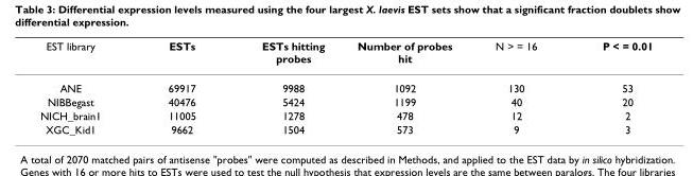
<table><thead><tr><td>EST library</td><td>ESTs</td><td>ESTs hitting probes</td><td>Number of probes hit</td><td>N &gt; = 16</td><td>P &lt; = 0.01</td></tr></thead><tbody><tr><td>ANE</td><td>69917</td><td>9988</td><td>1092</td><td>130</td><td>53</td></tr><tr><td>NIBBegast</td><td>40476</td><td>5424</td><td>1199</td><td>40</td><td>20</td></tr><tr><td>NICH_brain1</td><td>11005</td><td>1278</td><td>478</td><td>12</td><td>2</td></tr><tr><td>XGC_Kid1</td><td>9662</td><td>1504</td><td>573</td><td>9</td><td>3</td></tr></tbody></table>